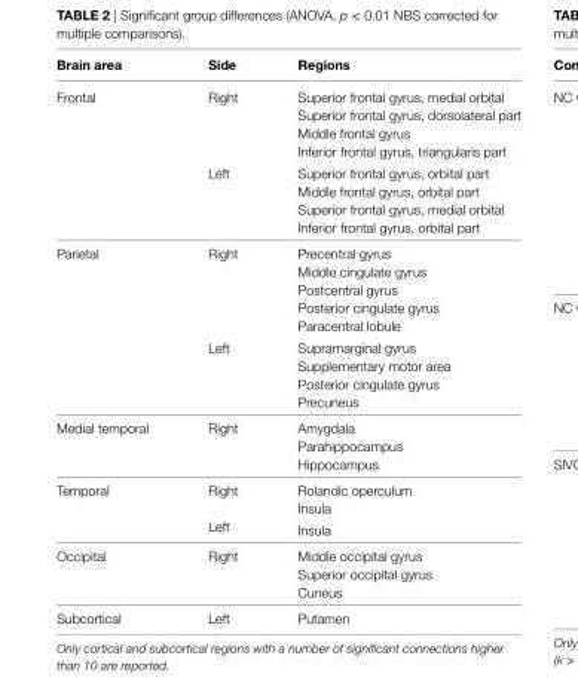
<table><thead><tr><td>Brain area</td><td>side</td><td>regions</td></tr></thead><tbody><tr><td rowspan="8">Frontal</td><td>Right</td><td>Superior frontal gyrus, medial orbital</td></tr><tr><td></td><td>Superior frontal gyrus, dorsolateral part</td></tr><tr><td></td><td>Middle frontal gyrus</td></tr><tr><td></td><td>Inferior frontal gyrus, triangularis part</td></tr><tr><td>Left</td><td>Superior frontal gyrus, orbital part</td></tr><tr><td></td><td>Middle frontal gyrus, orbital part</td></tr><tr><td></td><td>Superior frontal gyrus, medial orbital</td></tr><tr><td></td><td>Inferior frontal gyrus, orbital part</td></tr><tr><td rowspan="9">Parietal</td><td>Right</td><td>Precentral gyrus</td></tr><tr><td></td><td>Middle cingulate gyrus</td></tr><tr><td></td><td>Postcentral gyrus</td></tr><tr><td></td><td>Posterior cingulate gyrus</td></tr><tr><td></td><td>Paracentral lobule</td></tr><tr><td>Left</td><td>Supramarginal gyrus</td></tr><tr><td></td><td>Supplementary motor area</td></tr><tr><td></td><td>Posterior cingulate gyrus</td></tr><tr><td></td><td>Precuneus</td></tr><tr><td rowspan="3">Medial temporal</td><td>Right</td><td>Amygdala</td></tr><tr><td></td><td>Parahippocampus</td></tr><tr><td></td><td>Hippocampus</td></tr><tr><td rowspan="3">Temporal</td><td>Right</td><td>Rolandic operculum</td></tr><tr><td></td><td>Insula</td></tr><tr><td>Left</td><td>Insula</td></tr><tr><td rowspan="3">Occipital</td><td>Right</td><td>Middle occipital gyrus</td></tr><tr><td></td><td>Superior occipital gyrus</td></tr><tr><td></td><td>Cuneus</td></tr><tr><td>Subcortical</td><td>Left</td><td>Putamen</td></tr></tbody></table>